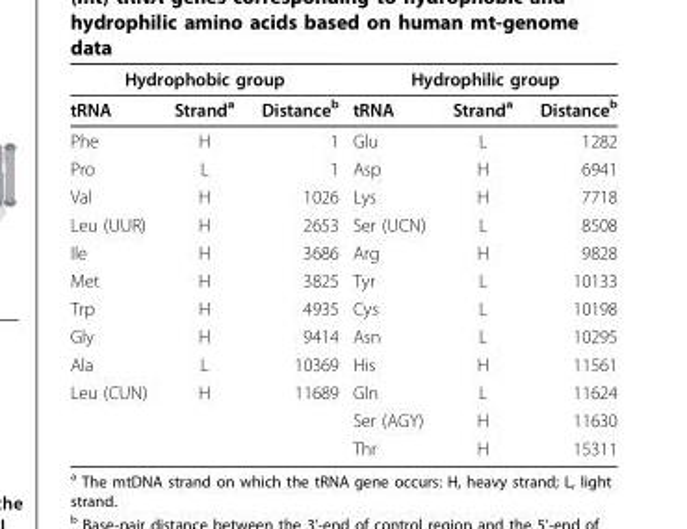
<table><tbody><tr><td colspan="3">Hydrophobic group</td><td colspan="3">Hydrophilic group</td></tr><tr><td>tRNA</td><td>Strand<sup>a</sup></td><td>Distance<sup>b</sup></td><td>tRNA</td><td>Strand<sup>a</sup></td><td>Distance<sup>b</sup></td></tr><tr><td>Phe</td><td>H</td><td>1</td><td>Glu</td><td>L</td><td>1282</td></tr><tr><td>Pro</td><td>L</td><td>1</td><td>Asp</td><td>H</td><td>6941</td></tr><tr><td>Val</td><td>H</td><td>1026</td><td>Lys</td><td>H</td><td>7718</td></tr><tr><td>Leu (UUR)</td><td>H</td><td>2653</td><td>Ser (UCN)</td><td>L</td><td>8508</td></tr><tr><td>Ile</td><td>H</td><td>3686</td><td>Arg</td><td>H</td><td>9828</td></tr><tr><td>Met</td><td>H</td><td>3825</td><td>Tyr</td><td>L</td><td>10133</td></tr><tr><td>Trp</td><td>H</td><td>4935</td><td>Cys</td><td>L</td><td>10198</td></tr><tr><td>Gly</td><td>H</td><td>9414</td><td>Asn</td><td>L</td><td>10295</td></tr><tr><td>Ala</td><td>L</td><td>10369</td><td>His</td><td>H</td><td>11561</td></tr><tr><td rowspan="3">Leu (CUN)</td><td>H</td><td>11689</td><td>Gln</td><td>L</td><td>11624</td></tr><tr><td></td><td></td><td>Ser (AGY)</td><td>H</td><td>11630</td></tr><tr><td></td><td></td><td>Thr</td><td>H</td><td>15311</td></tr></tbody></table>